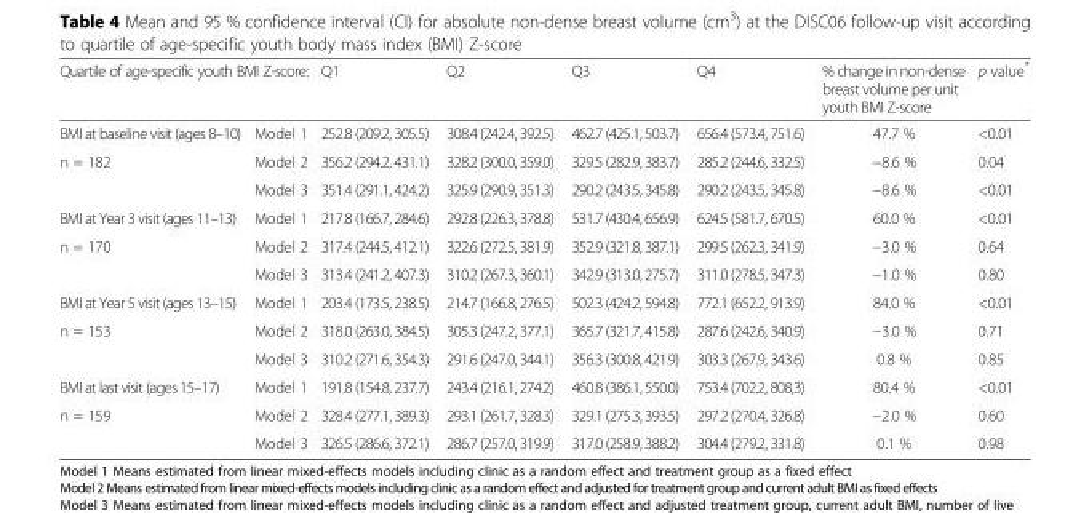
<table><thead><tr><td colspan="2">Quartile of age-specific youth BMI Z-score:</td><td rowspan="2">Q1 252.8 (209.2, 305.5)</td><td rowspan="2">Q2 308.4 (242.4, 392.5)</td><td rowspan="2">Q3 462.7 (425.1, 503.7)</td><td rowspan="2">Q4 656.4 (573.4, 751.6)</td><td rowspan="2">% change in non-dense breast volume per unit youth BMI Z-score 47.7 %</td><td rowspan="2">p value* &lt;0.01</td></tr><tr><td>BMI at baseline visit (ages 8–10)</td><td>Model 1</td></tr></thead><tbody><tr><td rowspan="2">n = 182</td><td>Model 2</td><td>356.2 (294.2, 431.1)</td><td>328.2 (300.0, 359.0)</td><td>329.5 (282.9, 383.7)</td><td>285.2 (244.6, 332.5)</td><td>−8.6 %</td><td>0.04</td></tr><tr><td>Model 3</td><td>351.4 (291.1, 424.2)</td><td>325.9 (290.9, 351.3)</td><td>290.2 (243.5, 345.8)</td><td>290.2 (243.5, 345.8)</td><td>−8.6 %</td><td>&lt;0.01</td></tr><tr><td>BMI at Year 3 visit (ages 11–13)</td><td>Model 1</td><td>217.8 (166.7, 284.6)</td><td>292.8 (226.3, 378.8)</td><td>531.7 (430.4, 656.9)</td><td>624.5 (581.7, 670.5)</td><td>60.0 %</td><td>&lt;0.01</td></tr><tr><td rowspan="2">n = 170</td><td>Model 2</td><td>317.4 (244.5, 412.1)</td><td>322.6 (272.5, 381.9)</td><td>352.9 (321.8, 387.1)</td><td>299.5 (262.3, 341.9)</td><td>−3.0 %</td><td>0.64</td></tr><tr><td>Model 3</td><td>313.4 (241.2, 407.3)</td><td>310.2 (267.3, 360.1)</td><td>342.9 (313.0, 275.7)</td><td>311.0 (278.5, 347.3)</td><td>−1.0 %</td><td>0.80</td></tr><tr><td>BMI at Year 5 visit (ages 13–15)</td><td>Model 1</td><td>203.4 (173.5, 238.5)</td><td>214.7 (166.8, 276.5)</td><td>502.3 (424.2, 594.8)</td><td>772.1 (652.2, 913.9)</td><td>84.0 %</td><td>&lt;0.01</td></tr><tr><td rowspan="2">n = 153</td><td>Model 2</td><td>318.0 (263.0, 384.5)</td><td>305.3 (247.2, 377.1)</td><td>365.7 (321.7, 415.8)</td><td>287.6 (242.6, 340.9)</td><td>−3.0 %</td><td>0.71</td></tr><tr><td>Model 3</td><td>310.2 (271.6, 354.3)</td><td>291.6 (247.0, 344.1)</td><td>356.3 (300.8, 421.9)</td><td>303.3 (267.9, 343.6)</td><td>0.8 %</td><td>0.85</td></tr><tr><td>BMI at last visit (ages 15–17)</td><td>Model 1</td><td>191.8 (154.8, 237.7)</td><td>243.4 (216.1, 274.2)</td><td>460.8 (386.1, 550.0)</td><td>753.4 (702.2, 808,3)</td><td>80.4 %</td><td>&lt;0.01</td></tr><tr><td rowspan="2">n = 159</td><td>Model 2</td><td>328.4 (277.1, 389.3)</td><td>293.1 (261.7, 328.3)</td><td>329.1 (275.3, 393.5)</td><td>297.2 (270.4, 326.8)</td><td>−2.0 %</td><td>0.60</td></tr><tr><td>Model 3</td><td>326.5 (286.6, 372.1)</td><td>286.7 (257.0, 319.9)</td><td>317.0 (258.9, 388.2)</td><td>304.4 (279.2, 331.8)</td><td>0.1 %</td><td>0.98</td></tr></tbody></table>